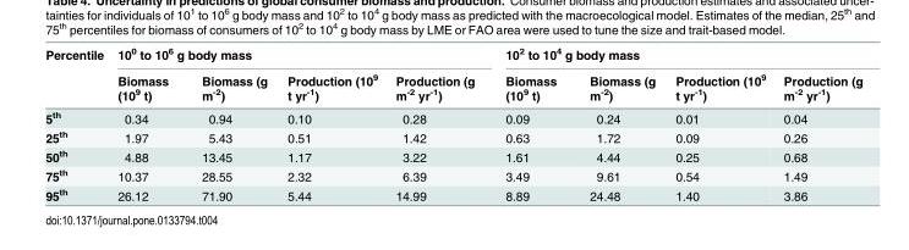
<table><thead><tr><td rowspan="2">Percentile</td><td colspan="4">10<sup>0</sup> to 10<sup>6</sup> g body mass</td><td colspan="4">10<sup>2</sup> to 10<sup>4</sup> g body mass</td></tr><tr><td>Biomass (10<sup>9</sup> t)</td><td>Biomass (g m<sup>-2</sup>)</td><td>Production (10<sup>9</sup> t yr<sup>-1</sup>)</td><td>Production (g m<sup>-2</sup> yr<sup>-1</sup>)</td><td>Biomass (10<sup>9</sup> t)</td><td>Biomass (g m<sup>-2</sup>)</td><td>Production (10<sup>9</sup> t yr<sup>-1</sup>)</td><td>Production (g m<sup>-2</sup> yr<sup>-1</sup>)</td></tr></thead><tbody><tr><td>5<sup>th</sup></td><td>0.34</td><td>0.94</td><td>0.10</td><td>0.28</td><td>0.09</td><td>0.24</td><td>0.01</td><td>0.04</td></tr><tr><td>25<sup>th</sup></td><td>1.97</td><td>5.43</td><td>0.51</td><td>1.42</td><td>0.63</td><td>1.72</td><td>0.09</td><td>0.26</td></tr><tr><td>50<sup>th</sup></td><td>4.88</td><td>13.45</td><td>1.17</td><td>3.22</td><td>1.61</td><td>4.44</td><td>0.25</td><td>0.68</td></tr><tr><td>75<sup>th</sup></td><td>10.37</td><td>28.55</td><td>2.32</td><td>6.39</td><td>3.49</td><td>9.61</td><td>0.54</td><td>1.49</td></tr><tr><td>95<sup>th</sup></td><td>26.12</td><td>71.90</td><td>5.44</td><td>14.99</td><td>8.89</td><td>24.48</td><td>1.40</td><td>3.86</td></tr></tbody></table>